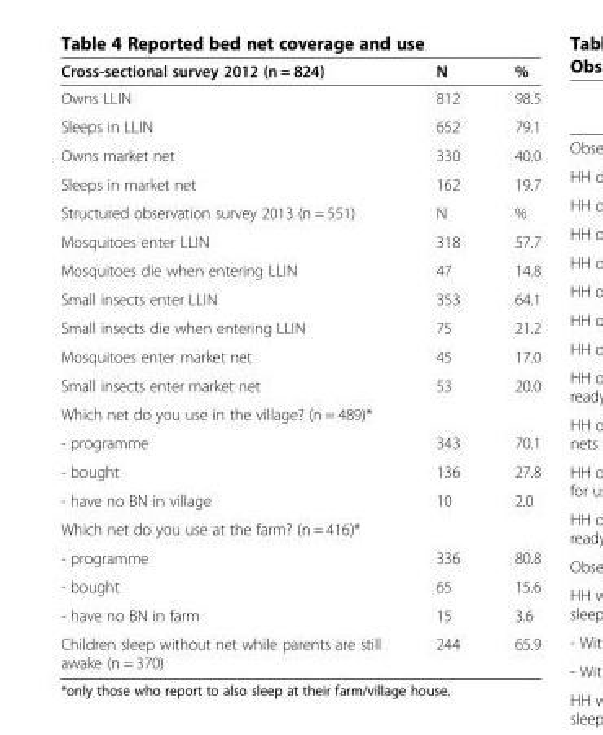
<table><thead><tr><td>Cross-sectional survey 2012 (n = 824)</td><td>N</td><td>%</td></tr></thead><tbody><tr><td>Owns LLIN</td><td>812</td><td>98.5</td></tr><tr><td>Sleeps in LLIN</td><td>652</td><td>79.1</td></tr><tr><td>Owns market net</td><td>330</td><td>40.0</td></tr><tr><td>Sleeps in market net</td><td>162</td><td>19.7</td></tr><tr><td>Structured observation survey 2013 (n = 551)</td><td>N</td><td>%</td></tr><tr><td>Mosquitoes enter LLIN</td><td>318</td><td>57.7</td></tr><tr><td>Mosquitoes die when entering LLIN</td><td>47</td><td>14.8</td></tr><tr><td>Small insects enter LLIN</td><td>353</td><td>64.1</td></tr><tr><td>Small insects die when entering LLIN</td><td>75</td><td>21.2</td></tr><tr><td>Mosquitoes enter market net</td><td>45</td><td>17.0</td></tr><tr><td>Small insects enter market net</td><td>53</td><td>20.0</td></tr><tr><td colspan="3">Which net do you use in the village? (n = 489)*</td></tr><tr><td>- programme</td><td>343</td><td>70.1</td></tr><tr><td>- bought</td><td>136</td><td>27.8</td></tr><tr><td>- have no BN in village</td><td>10</td><td>2.0</td></tr><tr><td colspan="3">Which net do you use at the farm? (n = 416)*</td></tr><tr><td>- programme</td><td>336</td><td>80.8</td></tr><tr><td>- bought</td><td>65</td><td>15.6</td></tr><tr><td>- have no BN in farm</td><td>15</td><td>3.6</td></tr><tr><td>Children sleep without net while parents are still awake (n = 370)</td><td>244</td><td>65.9</td></tr></tbody></table>